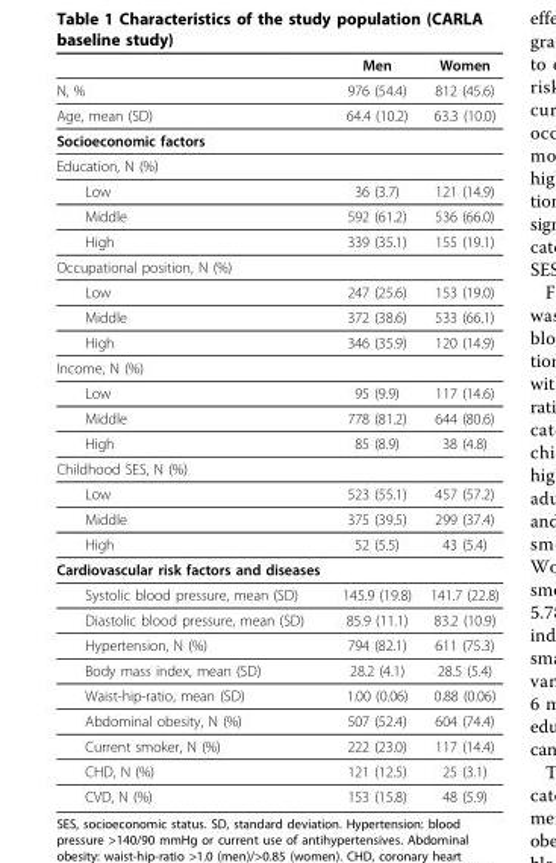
<table><thead><tr><td></td><td>Men</td><td>Women</td></tr></thead><tbody><tr><td>N, %</td><td>976 (54.4)</td><td>812 (45.6)</td></tr><tr><td>Age, mean (SD)</td><td>64.4 (10.2)</td><td>63.3 (10.0)</td></tr><tr><td colspan="3">Socioeconomic factors</td></tr><tr><td colspan="3">Education, N (%)</td></tr><tr><td>Low</td><td>36 (3.7)</td><td>121 (14.9)</td></tr><tr><td>Middle</td><td>592 (61.2)</td><td>536 (66.0)</td></tr><tr><td>High</td><td>339 (35.1)</td><td>155 (19.1)</td></tr><tr><td colspan="3">Occupational position, N (%)</td></tr><tr><td>Low</td><td>247 (25.6)</td><td>153 (19.0)</td></tr><tr><td>Middle</td><td>372 (38.6)</td><td>533 (66.1)</td></tr><tr><td>High</td><td>346 (35.9)</td><td>120 (14.9)</td></tr><tr><td colspan="3">Income, N (%)</td></tr><tr><td>Low</td><td>95 (9.9)</td><td>117 (14.6)</td></tr><tr><td>Middle</td><td>778 (81.2)</td><td>644 (80.6)</td></tr><tr><td>High</td><td>85 (8.9)</td><td>38 (4.8)</td></tr><tr><td colspan="3">Childhood SES, N (%)</td></tr><tr><td>Low</td><td>523 (55.1)</td><td>457 (57.2)</td></tr><tr><td>Middle</td><td>375 (39.5)</td><td>299 (37.4)</td></tr><tr><td>High</td><td>52 (5.5)</td><td>43 (5.4)</td></tr><tr><td colspan="3">Cardiovascular risk factors and diseases</td></tr><tr><td>Systolic blood pressure, mean (SD)</td><td>145.9 (19.8)</td><td>141.7 (22.8)</td></tr><tr><td>Diastolic blood pressure, mean (SD)</td><td>85.9 (11.1)</td><td>83.2 (10.9)</td></tr><tr><td>Hypertension, N (%)</td><td>794 (82.1)</td><td>611 (75.3)</td></tr><tr><td>Body mass index, mean (SD)</td><td>28.2 (4.1)</td><td>28.5 (5.4)</td></tr><tr><td>Waist-hip-ratio, mean (SD)</td><td>1.00 (0.06)</td><td>0.88 (0.06)</td></tr><tr><td>Abdominal obesity, N (%)</td><td>507 (52.4)</td><td>604 (74.4)</td></tr><tr><td>Current smoker, N (%)</td><td>222 (23.0)</td><td>117 (14.4)</td></tr><tr><td>CHD, N (%)</td><td>121 (12.5)</td><td>25 (3.1)</td></tr><tr><td>CVD, N (%)</td><td>153 (15.8)</td><td>48 (5.9)</td></tr></tbody></table>